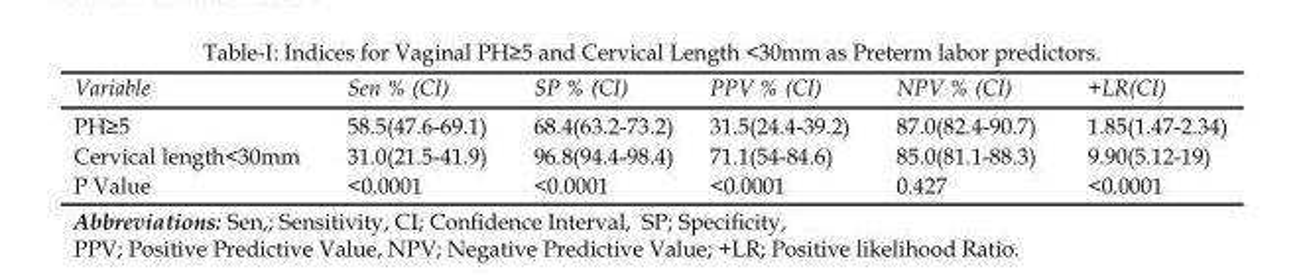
<table><thead><tr><td>Variable</td><td>Sen % (CI)</td><td>SP % (CI)</td><td>PPV % (CI)</td><td>NPV % (CI)</td><td>+LR(CI)</td></tr></thead><tbody><tr><td>PH≥5</td><td>58.5(47.6-69.1)</td><td>68.4(63.2-73.2)</td><td>31.5(24.4-39.2)</td><td>87.0(82.4-90.7)</td><td>1.85(1.47-2.34)</td></tr><tr><td>Cervical length&lt;30mm</td><td>31.0(21.5-41.9)</td><td>96.8(94.4-98.4)</td><td>71.1(54-84.6)</td><td>85.0(81.1-88.3)</td><td>9.90(5.12-19)</td></tr><tr><td>P Value</td><td>&lt;0.0001</td><td>&lt;0.0001</td><td>&lt;0.0001</td><td>0.427</td><td>&lt;0.0001</td></tr></tbody></table>